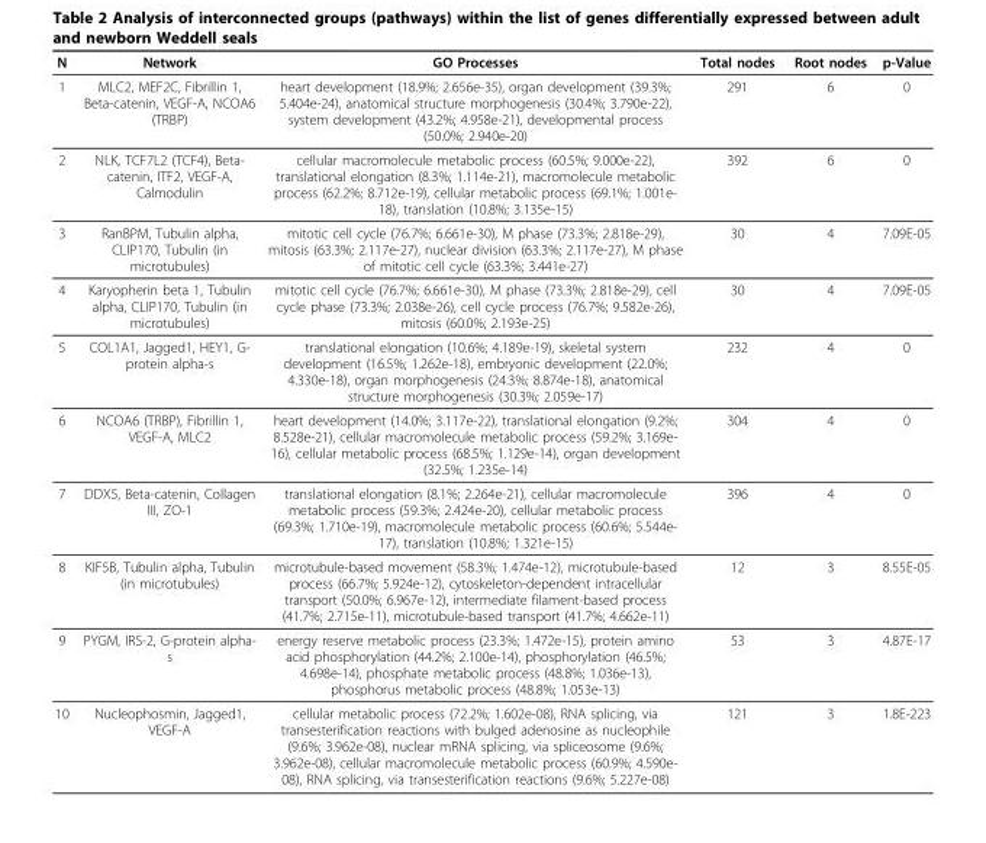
<table><thead><tr><td>N</td><td>Network</td><td>GO Processes</td><td>Total nodes</td><td>Root nodes</td><td>p-Value</td></tr></thead><tbody><tr><td>1</td><td>MLC2, MEF2C, Fibrillin 1, Beta-catenin, VEGF-A, NCOA6 (TRBP)</td><td>heart development (18.9%; 2.656e-35), organ development (39.3%; 5.404e-24), anatomical structure morphogenesis (30.4%; 3.790e-22), system development (43.2%; 4.958e-21), developmental process (50.0%; 2.940e-20)</td><td>291</td><td>6</td><td>0</td></tr><tr><td>2</td><td>NLK, TCF7L2 (TCF4), Beta- catenin, ITF2, VEGF-A, Calmodulin</td><td>cellular macromolecule metabolic process (60.5%; 9.000e-22), translational elongation (8.3%; 1.114e-21), macromolecule metabolic process (62.2%; 8.712e-19), cellular metabolic process (69.1%; 1.001e- 18), translation (10.8%; 3.135e-15)</td><td>392</td><td>6</td><td>0</td></tr><tr><td>3</td><td>RanBPM, Tubulin alpha, CLIP170, Tubulin (in microtubules)</td><td>mitotic cell cycle (76.7%; 6.661e-30), M phase (73.3%; 2.818e-29), mitosis (63.3%; 2.117e-27), nuclear division (63.3%; 2.117e-27), M phase of mitotic cell cycle (63.3%; 3.441e-27)</td><td>30</td><td>4</td><td>7.09E-05</td></tr><tr><td>4</td><td>Karyopherin beta 1, Tubulin alpha, CLIP170, Tubulin (in microtubules)</td><td>mitotic cell cycle (76.7%; 6.661e-30), M phase (73.3%; 2.818e-29), cell cycle phase (73.3%; 2.038e-26), cell cycle process (76.7%; 9.582e-26), mitosis (60.0%; 2.193e-25)</td><td>30</td><td>4</td><td>7.09E-05</td></tr><tr><td>5</td><td>COL1A1, Jagged1, HEY1, G- protein alpha-s</td><td>translational elongation (10.6%; 4.189e-19), skeletal system development (16.5%; 1.262e-18), embryonic development (22.0%; 4.330e-18), organ morphogenesis (24.3%; 8.874e-18), anatomical structure morphogenesis (30.3%; 2.059e-17)</td><td>232</td><td>4</td><td>0</td></tr><tr><td>6</td><td>NCOA6 (TRBP), Fibrillin 1, VEGF-A, MLC2</td><td>heart development (14.0%; 3.117e-22), translational elongation (9.2%; 8.528e-21), cellular macromolecule metabolic process (59.2%; 3.169e- 16), cellular metabolic process (68.5%; 1.129e-14), organ development (32.5%; 1.235e-14)</td><td>304</td><td>4</td><td>0</td></tr><tr><td>7</td><td>DDX5, Beta-catenin, Collagen III, ZO-1</td><td>translational elongation (8.1%; 2.264e-21), cellular macromolecule metabolic process (59.3%; 2.424e-20), cellular metabolic process (69.3%; 1.710e-19), macromolecule metabolic process (60.6%; 5.544e- 17), translation (10.8%; 1.321e-15)</td><td>396</td><td>4</td><td>0</td></tr><tr><td>8</td><td>KIF5B, Tubulin alpha, Tubulin (in microtubules)</td><td>microtubule-based movement (58.3%; 1.474e-12), microtubule-based process (66.7%; 5.924e-12), cytoskeleton-dependent intracellular transport (50.0%; 6.967e-12), intermediate filament-based process (41.7%; 2.715e-11), microtubule-based transport (41.7%; 4.662e-11)</td><td>12</td><td>3</td><td>8.55E-05</td></tr><tr><td>9</td><td>PYGM, IRS-2, G-protein alpha- s</td><td>energy reserve metabolic process (23.3%; 1.472e-15), protein amino acid phosphorylation (44.2%; 2.100e-14), phosphorylation (46.5%; 4.698e-14), phosphate metabolic process (48.8%; 1.036e-13), phosphorus metabolic process (48.8%; 1.053e-13)</td><td>53</td><td>3</td><td>4.87E-17</td></tr><tr><td>10</td><td>Nucleophosmin, Jagged1, VEGF-A</td><td>cellular metabolic process (72.2%; 1.602e-08), RNA splicing, via transesterification reactions with bulged adenosine as nucleophile (9.6%; 3.962e-08), nuclear mRNA splicing, via spliceosome (9.6%; 3.962e-08), cellular macromolecule metabolic process (60.9%; 4.590e- 08), RNA splicing, via transesterification reactions (9.6%; 5.227e-08)</td><td>121</td><td>3</td><td>1.8E-223</td></tr></tbody></table>